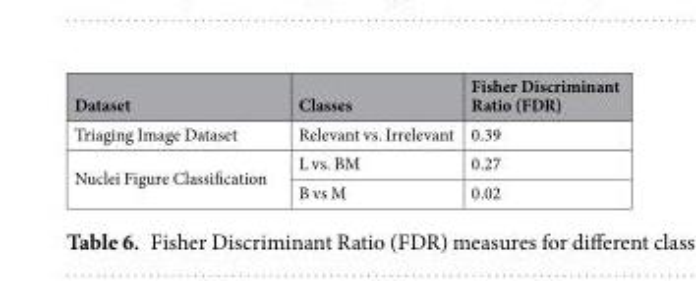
<table><thead><tr><td>Dataset</td><td>Classes</td><td>Fisher Discriminant Ratio (FDR)</td></tr></thead><tbody><tr><td>Triaging Image Dataset</td><td>Relevant vs. Irrelevant</td><td>0.39</td></tr><tr><td rowspan="2">Nuclei Figure Classification</td><td>L vs. BM</td><td>0.27</td></tr><tr><td>B vs M</td><td>0.02</td></tr></tbody></table>